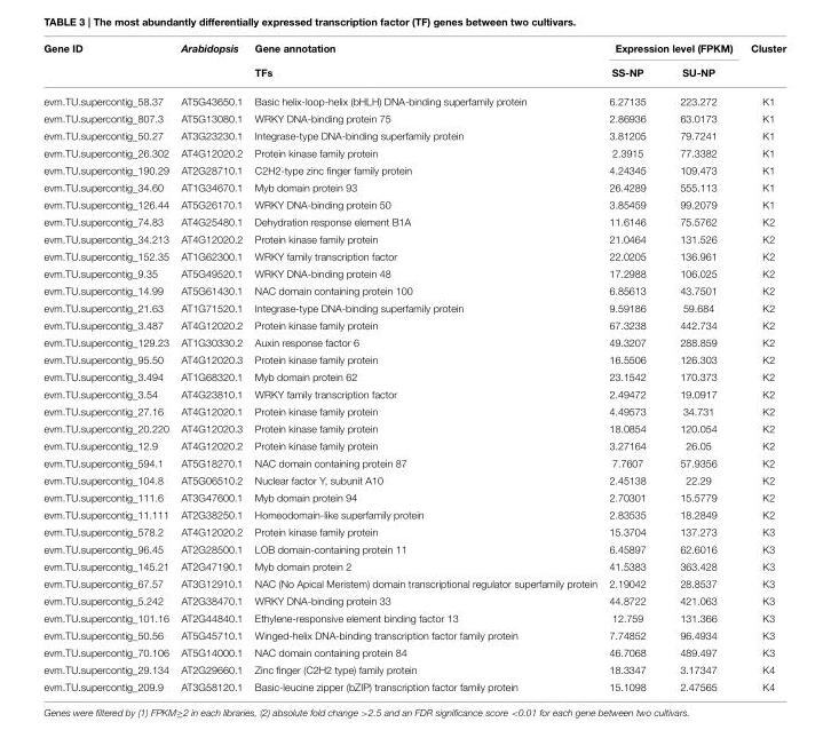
<table><thead><tr><td rowspan="2">Gene ID</td><td rowspan="2">Arabidopsis</td><td rowspan="2">Gene annotation TFs</td><td colspan="2">Expression level (FPKM)</td><td rowspan="2">Cluster</td></tr><tr><td>SS-NP</td><td>SU-NP</td></tr></thead><tbody><tr><td>evm.TU.supercontig_58.37</td><td>AT5G43650.1</td><td>Basic helix-loop-helix (bHLH) DNA-binding superfamily protein</td><td>6.27135</td><td>223.272</td><td>K1</td></tr><tr><td>evm.TU.supercontig_807.3</td><td>AT5G13080.1</td><td>WRKY DNA-binding protein 75</td><td>2.86936</td><td>63.0173</td><td>K1</td></tr><tr><td>evm.TU.supercontig_50.27</td><td>AT3G23230.1</td><td>Integrase-type DNA-binding superfamily protein</td><td>3.81205</td><td>79.7241</td><td>K1</td></tr><tr><td>evm.TU.supercontig_26.302</td><td>AT4G12020.2</td><td>Protein kinase family protein</td><td>2.3915</td><td>77.3382</td><td>K1</td></tr><tr><td>evm.TU.supercontig_190.29</td><td>AT2G28710.1</td><td>C2H2-type zinc finger family protein</td><td>4.24345</td><td>109.473</td><td>K1</td></tr><tr><td>evm.TU.supercontig_34.60</td><td>AT1G34670.1</td><td>Myb domain protein 93</td><td>26.4289</td><td>555.113</td><td>K1</td></tr><tr><td>evm.TU.supercontig_126.44</td><td>AT5G26170.1</td><td>WRKY DNA-binding protein 50</td><td>3.85459</td><td>99.2079</td><td>K1</td></tr><tr><td>evm.TU.supercontig_74.83</td><td>AT4G25480.1</td><td>Dehydration response element B1A</td><td>11.6146</td><td>75.5762</td><td>K2</td></tr><tr><td>evm.TU.supercontig_34.213</td><td>AT4G12020.2</td><td>Protein kinase family protein</td><td>21.0464</td><td>131.526</td><td>K2</td></tr><tr><td>evm.TU.supercontig_152.35</td><td>AT1G62300.1</td><td>WRKY family transcription factor</td><td>22.0205</td><td>136.961</td><td>K2</td></tr><tr><td>evm.TU.supercontig_9.35</td><td>AT5G49520.1</td><td>WRKY DNA-binding protein 48</td><td>17.2988</td><td>106.025</td><td>K2</td></tr><tr><td>evm.TU.supercontig_14.99</td><td>AT5G61430.1</td><td>NAC domain containing protein 100</td><td>6.85613</td><td>43.7501</td><td>K2</td></tr><tr><td>evm.TU.supercontig_21.63</td><td>AT1G71520.1</td><td>Integrase-type DNA-binding superfamily protein</td><td>9.59186</td><td>59.684</td><td>K2</td></tr><tr><td>evm.TU.supercontig_3.487</td><td>AT4G12020.2</td><td>Protein kinase family protein</td><td>67.3238</td><td>442.734</td><td>K2</td></tr><tr><td>evm.TU.supercontig_129.23</td><td>AT1G30330.2</td><td>Auxin response factor 6</td><td>49.3207</td><td>288.859</td><td>K2</td></tr><tr><td>evm.TU.supercontig_95.50</td><td>AT4G12020.3</td><td>Protein kinase family protein</td><td>16.5506</td><td>126.303</td><td>K2</td></tr><tr><td>evm.TU.supercontig_3.494</td><td>AT1G68320.1</td><td>Myb domain protein 62</td><td>23.1542</td><td>170.373</td><td>K2</td></tr><tr><td>evm.TU.supercontig_3.54</td><td>AT4G23810.1</td><td>WRKY family transcription factor</td><td>2.49472</td><td>19.0917</td><td>K2</td></tr><tr><td>evm.TU.supercontig_27.16</td><td>AT4G12020.1</td><td>Protein kinase family protein</td><td>4.49573</td><td>34.731</td><td>K2</td></tr><tr><td>evm.TU.supercontig_20.220</td><td>AT4G12020.3</td><td>Protein kinase family protein</td><td>18.0854</td><td>120.054</td><td>K2</td></tr><tr><td>evm.TU.supercontig_12.9</td><td>AT4G12020.2</td><td>Protein kinase family protein</td><td>3.27164</td><td>26.05</td><td>K2</td></tr><tr><td>evm.TU.supercontig_594.1</td><td>AT5G18270.1</td><td>NAC domain containing protein 87</td><td>7.7607</td><td>57.9356</td><td>K2</td></tr><tr><td>evm.TU.supercontig_104.8</td><td>AT5G06510.2</td><td>Nuclear factor Y, subunit A10</td><td>2.45138</td><td>22.29</td><td>K2</td></tr><tr><td>evm.TU.supercontig_111.6</td><td>AT3G47600.1</td><td>Myb domain protein 94</td><td>2.70301</td><td>15.5779</td><td>K2</td></tr><tr><td>evm.TU.supercontig_11.111</td><td>AT2G38250.1</td><td>Homeodomain-like superfamily protein</td><td>2.83535</td><td>18.2849</td><td>K2</td></tr><tr><td>evm.TU.supercontig_578.2</td><td>AT4G12020.2</td><td>Protein kinase family protein</td><td>15.3704</td><td>137.273</td><td>K3</td></tr><tr><td>evm.TU.supercontig_96.45</td><td>AT2G28500.1</td><td>LOB domain-containing protein 11</td><td>6.45897</td><td>62.6016</td><td>K3</td></tr><tr><td>evm.TU.supercontig_145.21</td><td>AT2G47190.1</td><td>Myb domain protein 2</td><td>41.5383</td><td>363.428</td><td>K3</td></tr><tr><td>evm.TU.supercontig_67.57</td><td>AT3G12910.1</td><td>NAC (No Apical Meristem) domain transcriptional regulator superfamily protein</td><td>2.19042</td><td>28.8537</td><td>K3</td></tr><tr><td>evm.TU.supercontig_5.242</td><td>AT2G38470.1</td><td>WRKY DNA-binding protein 33</td><td>44.8722</td><td>421.063</td><td>K3</td></tr><tr><td>evm.TU.supercontig_101.16</td><td>AT2G44840.1</td><td>Ethylene-responsive element binding factor 13</td><td>12.759</td><td>131.366</td><td>K3</td></tr><tr><td>evm.TU.supercontig_50.56</td><td>AT5G45710.1</td><td>Winged-helix DNA-binding transcription factor family protein</td><td>7.74852</td><td>96.4934</td><td>K3</td></tr><tr><td>evm.TU.supercontig_70.106</td><td>AT5G14000.1</td><td>NAC domain containing protein 84</td><td>46.7068</td><td>489.497</td><td>K3</td></tr><tr><td>evm.TU.supercontig_29.134</td><td>AT2G29660.1</td><td>Zinc finger (C2H2 type) family protein</td><td>18.3347</td><td>3.17347</td><td>K4</td></tr><tr><td>evm.TU.supercontig_209.9</td><td>AT3G58120.1</td><td>Basic-leucine zipper (bZIP) transcription factor family protein</td><td>15.1098</td><td>2.47565</td><td>K4</td></tr></tbody></table>